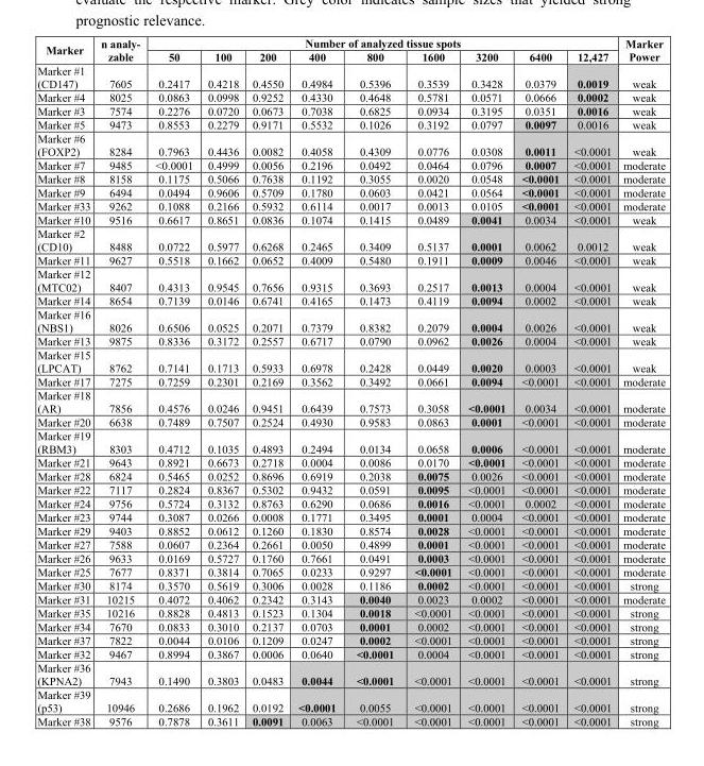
<table><thead><tr><td rowspan="2">Marker</td><td rowspan="2">n analy- zable</td><td colspan="9">Number of analyzed tissue spots</td><td rowspan="2">Marker Power</td></tr><tr><td>50</td><td>100</td><td>200</td><td>400</td><td>800</td><td>1600</td><td>3200</td><td>6400</td><td>12,427</td></tr></thead><tbody><tr><td>Marker #1 (CD147)</td><td>7605</td><td>0.2417</td><td>0.4218</td><td>0.4550</td><td>0.4984</td><td>0.5396</td><td>0.3539</td><td>0.3428</td><td>0.0379</td><td>0.0019</td><td>weak</td></tr><tr><td>Marker #4</td><td>8025</td><td>0.0863</td><td>0.0998</td><td>0.9252</td><td>0.4330</td><td>0.4648</td><td>0.5781</td><td>0.0571</td><td>0.0666</td><td>0.0002</td><td>weak</td></tr><tr><td>Marker #3</td><td>7574</td><td>0.2276</td><td>0.0720</td><td>0.0673</td><td>0.7038</td><td>0.6825</td><td>0.0934</td><td>0.3195</td><td>0.0351</td><td>0.0016</td><td>weak</td></tr><tr><td>Marker #5</td><td>9473</td><td>0.8553</td><td>0.2279</td><td>0.9171</td><td>0.5532</td><td>0.1026</td><td>0.3192</td><td>0.0797</td><td>0.0097</td><td>0.0016</td><td>weak</td></tr><tr><td>Marker #6 (FOXP2)</td><td>8284</td><td>0.7963</td><td>0.4436</td><td>0.0082</td><td>0.4058</td><td>0.4309</td><td>0.0776</td><td>0.0308</td><td>0.0011</td><td>&lt;0.0001</td><td>weak</td></tr><tr><td>Marker #7</td><td>9485</td><td>&lt;0.0001</td><td>0.4999</td><td>0.0056</td><td>0.2196</td><td>0.0492</td><td>0.0464</td><td>0.0796</td><td>0.0007</td><td>&lt;0.0001</td><td>moderate</td></tr><tr><td>Marker #8</td><td>8158</td><td>0.1175</td><td>0.5066</td><td>0.7638</td><td>0.1192</td><td>0.3055</td><td>0.0020</td><td>0.0548</td><td>&lt;0.0001</td><td>&lt;0.0001</td><td>moderate</td></tr><tr><td>Marker #9</td><td>6494</td><td>0.0494</td><td>0.9606</td><td>0.5709</td><td>0.1780</td><td>0.0603</td><td>0.0421</td><td>0.0564</td><td>&lt;0.0001</td><td>&lt;0.0001</td><td>moderate</td></tr><tr><td>Marker #33</td><td>9262</td><td>0.1088</td><td>0.2166</td><td>0.5932</td><td>0.6114</td><td>0.0017</td><td>0.0013</td><td>0.0105</td><td>&lt;0.0001</td><td>&lt;0.0001</td><td>moderate</td></tr><tr><td>Marker #10</td><td>9516</td><td>0.6617</td><td>0.8651</td><td>0.0836</td><td>0.1074</td><td>0.1415</td><td>0.0489</td><td>0.0041</td><td>0.0034</td><td>&lt;0.0001</td><td>weak</td></tr><tr><td>Marker #2 (CD10)</td><td>8488</td><td>0.0722</td><td>0.5977</td><td>0.6268</td><td>0.2465</td><td>0.3409</td><td>0.5137</td><td>0.0001</td><td>0.0062</td><td>0.0012</td><td>weak</td></tr><tr><td>Marker #11</td><td>9627</td><td>0.5518</td><td>0.1662</td><td>0.0652</td><td>0.4009</td><td>0.5480</td><td>0.1911</td><td>0.0009</td><td>0.0046</td><td>&lt;0.0001</td><td>weak</td></tr><tr><td>Marker #12 (MTC02)</td><td>8407</td><td>0.4313</td><td>0.9545</td><td>0.7656</td><td>0.9315</td><td>0.3693</td><td>0.2517</td><td>0.0013</td><td>0.0004</td><td>&lt;0.0001</td><td>weak</td></tr><tr><td>Marker #14</td><td>8654</td><td>0.7139</td><td>0.0146</td><td>0.6741</td><td>0.4165</td><td>0.1473</td><td>0.4119</td><td>0.0094</td><td>0.0002</td><td>&lt;0.0001</td><td>weak</td></tr><tr><td>Marker #16 (NBS1)</td><td>8026</td><td>0.6506</td><td>0.0525</td><td>0.2071</td><td>0.7379</td><td>0.8382</td><td>0.2079</td><td>0.0004</td><td>0.0026</td><td>&lt;0.0001</td><td>weak</td></tr><tr><td>Marker #13</td><td>9875</td><td>0.8336</td><td>0.3172</td><td>0.2557</td><td>0.6717</td><td>0.0790</td><td>0.0962</td><td>0.0026</td><td>0.0004</td><td>&lt;0.0001</td><td>weak</td></tr><tr><td>Marker #15 (LPCAT)</td><td>8762</td><td>0.7141</td><td>0.1713</td><td>0.5933</td><td>0.6978</td><td>0.2428</td><td>0.0449</td><td>0.0020</td><td>0.0003</td><td>&lt;0.0001</td><td>weak</td></tr><tr><td>Marker #17</td><td>7275</td><td>0.7259</td><td>0.2301</td><td>0.2169</td><td>0.3562</td><td>0.3492</td><td>0.0661</td><td>0.0094</td><td>&lt;0.0001</td><td>&lt;0.0001</td><td>moderate</td></tr><tr><td>Marker #18 (AR)</td><td>7856</td><td>0.4576</td><td>0.0246</td><td>0.9451</td><td>0.6439</td><td>0.7573</td><td>0.3058</td><td>&lt;0.0001</td><td>0.0034</td><td>&lt;0.0001</td><td>moderate</td></tr><tr><td>Marker #20</td><td>6638</td><td>0.7489</td><td>0.7507</td><td>0.2524</td><td>0.4930</td><td>0.9583</td><td>0.0863</td><td>0.0001</td><td>&lt;0.0001</td><td>&lt;0.0001</td><td>moderate</td></tr><tr><td>Marker #19 (RBM3)</td><td>8303</td><td>0.4712</td><td>0.1035</td><td>0.4893</td><td>0.2494</td><td>0.0134</td><td>0.0658</td><td>0.0006</td><td>&lt;0.0001</td><td>&lt;0.0001</td><td>moderate</td></tr><tr><td>Marker #21</td><td>9643</td><td>0.8921</td><td>0.6673</td><td>0.2718</td><td>0.0004</td><td>0.0086</td><td>0.0170</td><td>&lt;0.0001</td><td>&lt;0.0001</td><td>&lt;0.0001</td><td>moderate</td></tr><tr><td>Marker #28</td><td>6824</td><td>0.5465</td><td>0.0252</td><td>0.8696</td><td>0.6919</td><td>0.2038</td><td>0.0075</td><td>0.0026</td><td>&lt;0.0001</td><td>&lt;0.0001</td><td>moderate</td></tr><tr><td>Marker #22</td><td>7117</td><td>0.2824</td><td>0.8367</td><td>0.5302</td><td>0.9432</td><td>0.0591</td><td>0.0095</td><td>&lt;0.0001</td><td>&lt;0.0001</td><td>&lt;0.0001</td><td>moderate</td></tr><tr><td>Marker #24</td><td>9756</td><td>0.5724</td><td>0.3132</td><td>0.8763</td><td>0.6290</td><td>0.0686</td><td>0.0016</td><td>&lt;0.0001</td><td>0.0002</td><td>&lt;0.0001</td><td>moderate</td></tr><tr><td>Marker #23</td><td>9744</td><td>0.3087</td><td>0.0266</td><td>0.0008</td><td>0.1771</td><td>0.3495</td><td>0.0001</td><td>0.0004</td><td>&lt;0.0001</td><td>&lt;0.0001</td><td>moderate</td></tr><tr><td>Marker #29</td><td>9403</td><td>0.8852</td><td>0.0612</td><td>0.1260</td><td>0.1830</td><td>0.8574</td><td>0.0028</td><td>&lt;0.0001</td><td>&lt;0.0001</td><td>&lt;0.0001</td><td>moderate</td></tr><tr><td>Marker #27</td><td>7588</td><td>0.0607</td><td>0.2364</td><td>0.2661</td><td>0.0050</td><td>0.4899</td><td>0.0001</td><td>&lt;0.0001</td><td>&lt;0.0001</td><td>&lt;0.0001</td><td>moderate</td></tr><tr><td>Marker #26</td><td>9633</td><td>0.0169</td><td>0.5727</td><td>0.1760</td><td>0.7661</td><td>0.0491</td><td>0.0003</td><td>&lt;0.0001</td><td>&lt;0.0001</td><td>&lt;0.0001</td><td>moderate</td></tr><tr><td>Marker #25</td><td>7677</td><td>0.8371</td><td>0.3814</td><td>0.7065</td><td>0.0233</td><td>0.9297</td><td>&lt;0.0001</td><td>&lt;0.0001</td><td>&lt;0.0001</td><td>&lt;0.0001</td><td>moderate</td></tr><tr><td>Marker #30</td><td>8174</td><td>0.3570</td><td>0.5619</td><td>0.3006</td><td>0.0028</td><td>0.1186</td><td>0.0002</td><td>&lt;0.0001</td><td>&lt;0.0001</td><td>&lt;0.0001</td><td>strong</td></tr><tr><td>Marker #31</td><td>10215</td><td>0.4072</td><td>0.4062</td><td>0.2342</td><td>0.3143</td><td>0.0040</td><td>0.0023</td><td>0.0002</td><td>&lt;0.0001</td><td>&lt;0.0001</td><td>moderate</td></tr><tr><td>Marker #35</td><td>10216</td><td>0.8828</td><td>0.4813</td><td>0.1523</td><td>0.1304</td><td>0.0018</td><td>&lt;0.0001</td><td>&lt;0.0001</td><td>&lt;0.0001</td><td>&lt;0.0001</td><td>strong</td></tr><tr><td>Marker #34</td><td>7670</td><td>0.0833</td><td>0.3010</td><td>0.2137</td><td>0.0703</td><td>0.0001</td><td>0.0002</td><td>&lt;0.0001</td><td>&lt;0.0001</td><td>&lt;0.0001</td><td>strong</td></tr><tr><td>Marker #37</td><td>7822</td><td>0.0044</td><td>0.0106</td><td>0.1209</td><td>0.0247</td><td>0.0002</td><td>&lt;0.0001</td><td>&lt;0.0001</td><td>&lt;0.0001</td><td>&lt;0.0001</td><td>strong</td></tr><tr><td>Marker #32</td><td>9467</td><td>0.8994</td><td>0.3867</td><td>0.0006</td><td>0.0640</td><td>&lt;0.0001</td><td>0.0004</td><td>&lt;0.0001</td><td>&lt;0.0001</td><td>&lt;0.0001</td><td>strong</td></tr><tr><td>Marker #36 (KPNA2)</td><td>7943</td><td>0.1490</td><td>0.3803</td><td>0.0483</td><td>0.0044</td><td>&lt;0.0001</td><td>&lt;0.0001</td><td>&lt;0.0001</td><td>&lt;0.0001</td><td>&lt;0.0001</td><td>strong</td></tr><tr><td>Marker #39 (p53)</td><td>10946</td><td>0.2686</td><td>0.1962</td><td>0.0192</td><td>&lt;0.0001</td><td>0.0055</td><td>&lt;0.0001</td><td>&lt;0.0001</td><td>&lt;0.0001</td><td>&lt;0.0001</td><td>strong</td></tr><tr><td>Marker #38</td><td>9576</td><td>0.7878</td><td>0.3611</td><td>0.0091</td><td>0.0063</td><td>&lt;0.0001</td><td>&lt;0.0001</td><td>&lt;0.0001</td><td>&lt;0.0001</td><td>&lt;0.0001</td><td>strong</td></tr></tbody></table>